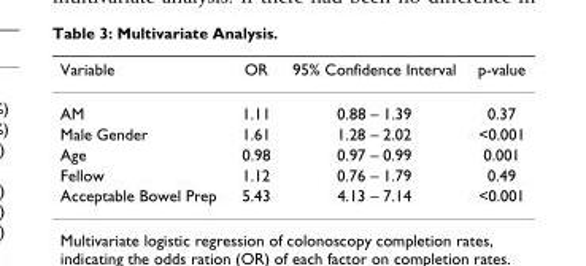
<table><thead><tr><td>Variable</td><td>OR</td><td>95% Confidence Interval</td><td>p-value</td></tr></thead><tbody><tr><td>AM</td><td>1.11</td><td>0.88 – 1.39</td><td>0.37</td></tr><tr><td>Male Gender</td><td>1.61</td><td>1.28 – 2.02</td><td>&lt;0.001</td></tr><tr><td>Age</td><td>0.98</td><td>0.97 – 0.99</td><td>0.001</td></tr><tr><td>Fellow</td><td>1.12</td><td>0.76 – 1.79</td><td>0.49</td></tr><tr><td>Acceptable Bowel Prep</td><td>5.43</td><td>4.13 – 7.14</td><td>&lt;0.001</td></tr></tbody></table>